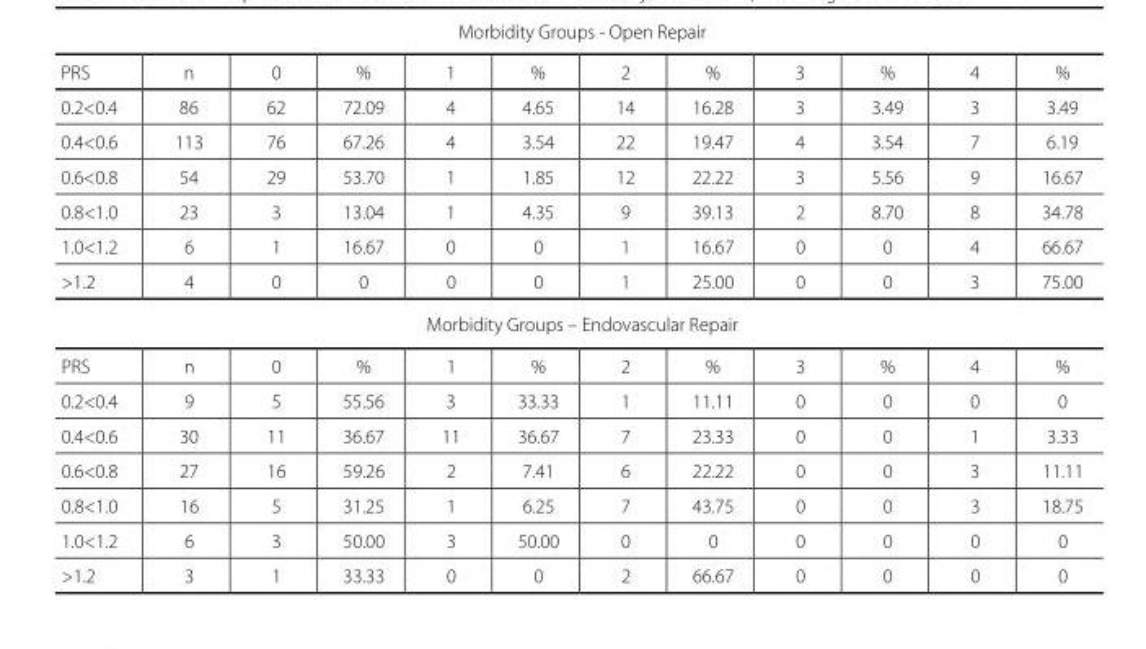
<table><thead><tr><td>PRS</td><td>n</td><td>0</td><td>%</td><td>1</td><td>%</td><td>2</td><td>%</td><td>3</td><td>%</td><td>4</td><td>%</td></tr></thead><tbody><tr><td>0.2&lt;0.4</td><td>86</td><td>62</td><td>72.09</td><td>4</td><td>4.65</td><td>14</td><td>16.28</td><td>3</td><td>3.49</td><td>3</td><td>3.49</td></tr><tr><td>0.4&lt;0.6</td><td>113</td><td>76</td><td>67.26</td><td>4</td><td>3.54</td><td>22</td><td>19.47</td><td>4</td><td>3.54</td><td>7</td><td>6.19</td></tr><tr><td>0.6&lt;0.8</td><td>54</td><td>29</td><td>53.70</td><td>1</td><td>1.85</td><td>12</td><td>22.22</td><td>3</td><td>5.56</td><td>9</td><td>16.67</td></tr><tr><td>0.8&lt;1.0</td><td>23</td><td>3</td><td>13.04</td><td>1</td><td>4.35</td><td>9</td><td>39.13</td><td>2</td><td>8.70</td><td>8</td><td>34.78</td></tr><tr><td>1.0&lt;1.2</td><td>6</td><td>1</td><td>16.67</td><td>0</td><td>0</td><td>1</td><td>16.67</td><td>0</td><td>0</td><td>4</td><td>66.67</td></tr><tr><td>&gt;1.2</td><td>4</td><td>0</td><td>0</td><td>0</td><td>0</td><td>1</td><td>25.00</td><td>0</td><td>0</td><td>3</td><td>75.00</td></tr><tr><td colspan="12">Morbidity Groups – Endovascular Repair</td></tr><tr><td>PRS</td><td>n</td><td>0</td><td>%</td><td>1</td><td>%</td><td>2</td><td>%</td><td>3</td><td>%</td><td>4</td><td>%</td></tr><tr><td>0.2&lt;0.4</td><td>9</td><td>5</td><td>55.56</td><td>3</td><td>33.33</td><td>1</td><td>11.11</td><td>0</td><td>0</td><td>0</td><td>0</td></tr><tr><td>0.4&lt;0.6</td><td>30</td><td>11</td><td>36.67</td><td>11</td><td>36.67</td><td>7</td><td>23.33</td><td>0</td><td>0</td><td>1</td><td>3.33</td></tr><tr><td>0.6&lt;0.8</td><td>27</td><td>16</td><td>59.26</td><td>2</td><td>7.41</td><td>6</td><td>22.22</td><td>0</td><td>0</td><td>3</td><td>11.11</td></tr><tr><td>0.8&lt;1.0</td><td>16</td><td>5</td><td>31.25</td><td>1</td><td>6.25</td><td>7</td><td>43.75</td><td>0</td><td>0</td><td>3</td><td>18.75</td></tr><tr><td>1.0&lt;1.2</td><td>6</td><td>3</td><td>50.00</td><td>3</td><td>50.00</td><td>0</td><td>0</td><td>0</td><td>0</td><td>0</td><td>0</td></tr><tr><td>&gt;1.2</td><td>3</td><td>1</td><td>33.33</td><td>0</td><td>0</td><td>2</td><td>66.67</td><td>0</td><td>0</td><td>0</td><td>0</td></tr></tbody></table>